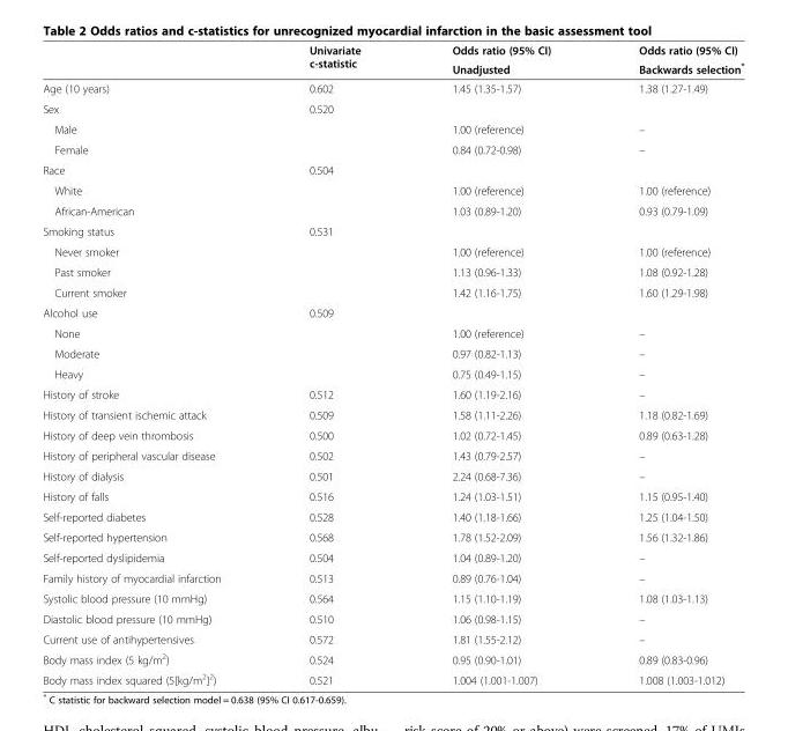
<table><thead><tr><td rowspan="2"></td><td rowspan="2">Univariate c-statistic</td><td rowspan="2">Odds ratio (95% CI) Unadjusted</td><td rowspan="2">Odds ratio (95% CI) Backwards selection*</td></tr><tr></tr></thead><tbody><tr><td>Age (10 years)</td><td>0.602</td><td>1.45 (1.35-1.57)</td><td>1.38 (1.27-1.49)</td></tr><tr><td>Sex</td><td>0.520</td><td></td><td></td></tr><tr><td>Male</td><td></td><td>1.00 (reference)</td><td>–</td></tr><tr><td>Female</td><td></td><td>0.84 (0.72-0.98)</td><td>–</td></tr><tr><td>Race</td><td>0.504</td><td></td><td></td></tr><tr><td>White</td><td></td><td>1.00 (reference)</td><td>1.00 (reference)</td></tr><tr><td>African-American</td><td></td><td>1.03 (0.89-1.20)</td><td>0.93 (0.79-1.09)</td></tr><tr><td>Smoking status</td><td>0.531</td><td></td><td></td></tr><tr><td>Never smoker</td><td></td><td>1.00 (reference)</td><td>1.00 (reference)</td></tr><tr><td>Past smoker</td><td></td><td>1.13 (0.96-1.33)</td><td>1.08 (0.92-1.28)</td></tr><tr><td>Current smoker</td><td></td><td>1.42 (1.16-1.75)</td><td>1.60 (1.29-1.98)</td></tr><tr><td>Alcohol use</td><td>0.509</td><td></td><td></td></tr><tr><td>None</td><td></td><td>1.00 (reference)</td><td>–</td></tr><tr><td>Moderate</td><td></td><td>0.97 (0.82-1.13)</td><td>–</td></tr><tr><td>Heavy</td><td></td><td>0.75 (0.49-1.15)</td><td>–</td></tr><tr><td>History of stroke</td><td>0.512</td><td>1.60 (1.19-2.16)</td><td>–</td></tr><tr><td>History of transient ischemic attack</td><td>0.509</td><td>1.58 (1.11-2.26)</td><td>1.18 (0.82-1.69)</td></tr><tr><td>History of deep vein thrombosis</td><td>0.500</td><td>1.02 (0.72-1.45)</td><td>0.89 (0.63-1.28)</td></tr><tr><td>History of peripheral vascular disease</td><td>0.502</td><td>1.43 (0.79-2.57)</td><td>–</td></tr><tr><td>History of dialysis</td><td>0.501</td><td>2.24 (0.68-7.36)</td><td>–</td></tr><tr><td>History of falls</td><td>0.516</td><td>1.24 (1.03-1.51)</td><td>1.15 (0.95-1.40)</td></tr><tr><td>Self-reported diabetes</td><td>0.528</td><td>1.40 (1.18-1.66)</td><td>1.25 (1.04-1.50)</td></tr><tr><td>Self-reported hypertension</td><td>0.568</td><td>1.78 (1.52-2.09)</td><td>1.56 (1.32-1.86)</td></tr><tr><td>Self-reported dyslipidemia</td><td>0.504</td><td>1.04 (0.89-1.20)</td><td>–</td></tr><tr><td>Family history of myocardial infarction</td><td>0.513</td><td>0.89 (0.76-1.04)</td><td>–</td></tr><tr><td>Systolic blood pressure (10 mmHg)</td><td>0.564</td><td>1.15 (1.10-1.19)</td><td>1.08 (1.03-1.13)</td></tr><tr><td>Diastolic blood pressure (10 mmHg)</td><td>0.510</td><td>1.06 (0.98-1.15)</td><td>–</td></tr><tr><td>Current use of antihypertensives</td><td>0.572</td><td>1.81 (1.55-2.12)</td><td>–</td></tr><tr><td>Body mass index (5 kg/m<sup>2</sup>)</td><td>0.524</td><td>0.95 (0.90-1.01)</td><td>0.89 (0.83-0.96)</td></tr><tr><td>Body mass index squared (5[kg/m<sup>2</sup>]<sup>2</sup>)</td><td>0.521</td><td>1.004 (1.001-1.007)</td><td>1.008 (1.003-1.012)</td></tr></tbody></table>